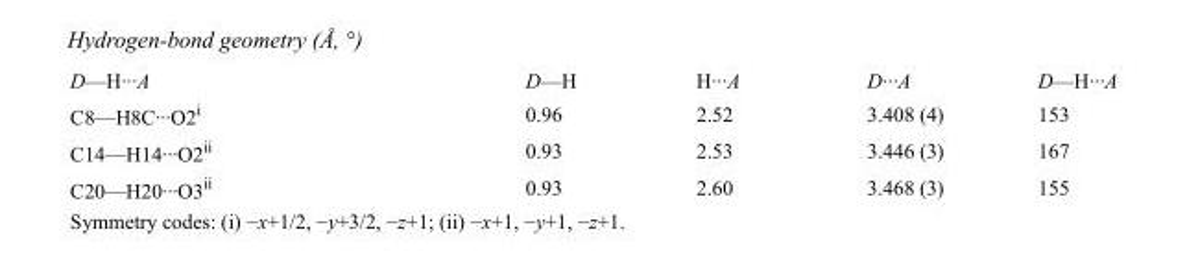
<table><tbody><tr><td>D—H···A</td><td>D—H</td><td>H···A</td><td>D···A</td><td>D—H···A</td></tr><tr><td>C8—H8C···O2<sup>i</sup></td><td>0.96</td><td>2.52</td><td>3.408 (4)</td><td>153</td></tr><tr><td>C14—H14···O2<sup>ii</sup></td><td>0.93</td><td>2.53</td><td>3.446 (3)</td><td>167</td></tr><tr><td>C20—H20···O3<sup>ii</sup></td><td>0.93</td><td>2.60</td><td>3.468 (3)</td><td>155</td></tr></tbody></table>